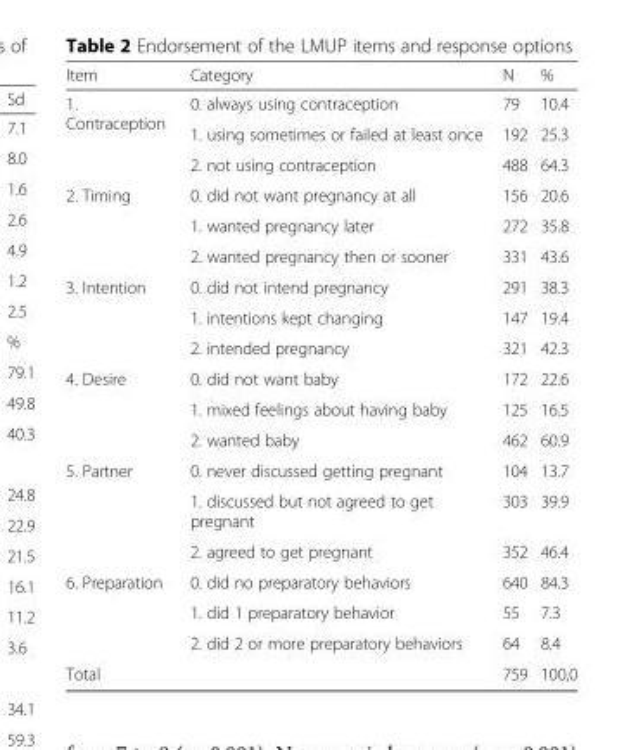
<table><thead><tr><td>Item</td><td>Category</td><td>N</td><td>%</td></tr></thead><tbody><tr><td rowspan="3">1. Contraception</td><td>0. always using contraception</td><td>79</td><td>10.4</td></tr><tr><td>1. using sometimes or failed at least once</td><td>192</td><td>25.3</td></tr><tr><td>2. not using contraception</td><td>488</td><td>64.3</td></tr><tr><td rowspan="3">2. Timing</td><td>0. did not want pregnancy at all</td><td>156</td><td>20.6</td></tr><tr><td>1. wanted pregnancy later</td><td>272</td><td>35.8</td></tr><tr><td>2. wanted pregnancy then or sooner</td><td>331</td><td>43.6</td></tr><tr><td rowspan="3">3. Intention</td><td>0. did not intend pregnancy</td><td>291</td><td>38.3</td></tr><tr><td>1. intentions kept changing</td><td>147</td><td>19.4</td></tr><tr><td>2. intended pregnancy</td><td>321</td><td>42.3</td></tr><tr><td rowspan="3">4. Desire</td><td>0. did not want baby</td><td>172</td><td>22.6</td></tr><tr><td>1. mixed feelings about having baby</td><td>125</td><td>16.5</td></tr><tr><td>2. wanted baby</td><td>462</td><td>60.9</td></tr><tr><td rowspan="3">5. Partner</td><td>0. never discussed getting pregnant</td><td>104</td><td>13.7</td></tr><tr><td>1. discussed but not agreed to get pregnant</td><td>303</td><td>39.9</td></tr><tr><td>2. agreed to get pregnant</td><td>352</td><td>46.4</td></tr><tr><td rowspan="3">6. Preparation</td><td>0. did no preparatory behaviors</td><td>640</td><td>84.3</td></tr><tr><td>1. did 1 preparatory behavior</td><td>55</td><td>7.3</td></tr><tr><td>2. did 2 or more preparatory behaviors</td><td>64</td><td>8.4</td></tr><tr><td>Total</td><td></td><td>759</td><td>100,0</td></tr></tbody></table>